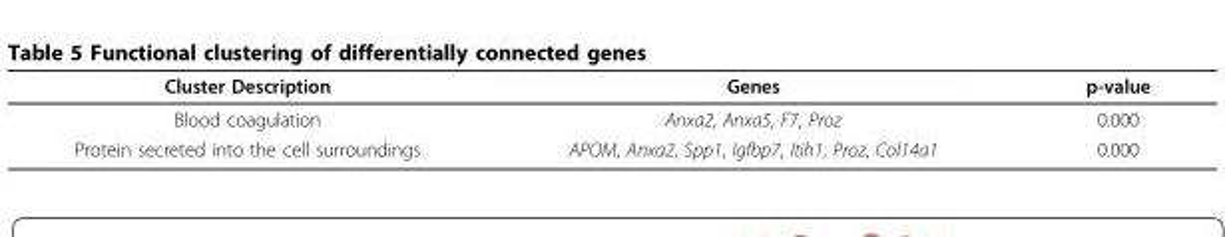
<table><thead><tr><td>Cluster Description</td><td>Genes</td><td>p-value</td></tr></thead><tbody><tr><td>Blood coagulation</td><td>Anxa2, Anxa5, F7, Proz</td><td>0.000</td></tr><tr><td>Protein secreted into the cell surroundings</td><td>APOM, Anxa2, Spp1, Igfbp7, Itih1, Proz, Col14a1</td><td>0.000</td></tr></tbody></table>